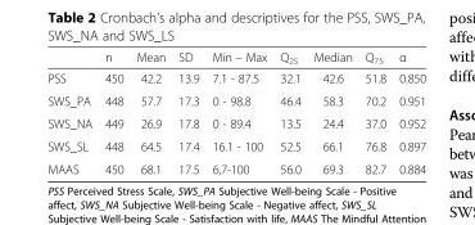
<table><thead><tr><td></td><td>n</td><td>Mean</td><td>SD</td><td>Min – Max</td><td>Q<sub>25</sub></td><td>Median</td><td>Q<sub>75</sub></td><td>α</td></tr></thead><tbody><tr><td>PSS</td><td>450</td><td>42.2</td><td>13.9</td><td>7.1 - 87.5</td><td>32.1</td><td>42.6</td><td>51.8</td><td>0.850</td></tr><tr><td>SWS_PA</td><td>448</td><td>57.7</td><td>17.3</td><td>0 - 98.8</td><td>46.4</td><td>58.3</td><td>70.2</td><td>0.951</td></tr><tr><td>SWS_NA</td><td>449</td><td>26.9</td><td>17.8</td><td>0 - 89.4</td><td>13.5</td><td>24.4</td><td>37.0</td><td>0.952</td></tr><tr><td>SWS_SL</td><td>448</td><td>64.5</td><td>17.4</td><td>16.1 - 100</td><td>52.5</td><td>66.1</td><td>76.8</td><td>0.897</td></tr><tr><td>MAAS</td><td>450</td><td>68.1</td><td>17.5</td><td>6,7-100</td><td>56.0</td><td>69.3</td><td>82.7</td><td>0.884</td></tr></tbody></table>